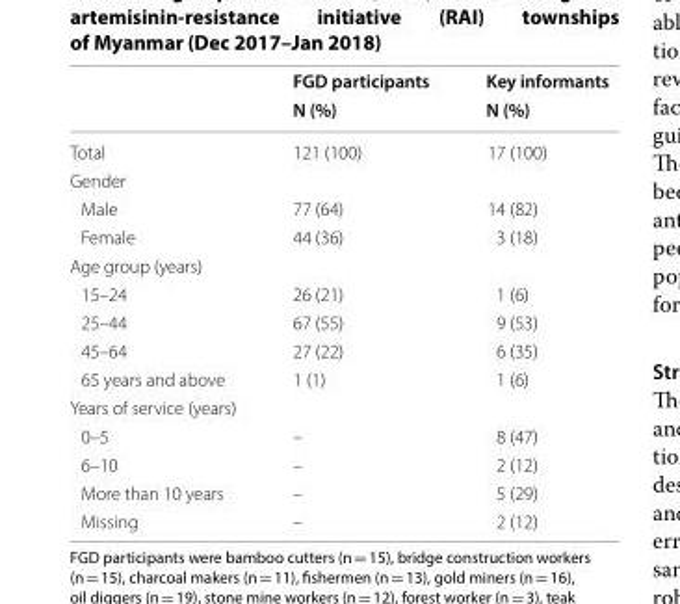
<table><thead><tr><td rowspan="2"></td><td rowspan="2">FGD participants N (%)</td><td rowspan="2">Key informants N (%)</td></tr><tr></tr></thead><tbody><tr><td>Total</td><td>121 (100)</td><td>17 (100)</td></tr><tr><td colspan="3">Gender</td></tr><tr><td>Male</td><td>77 (64)</td><td>14 (82)</td></tr><tr><td>Female</td><td>44 (36)</td><td>3 (18)</td></tr><tr><td colspan="3">Age group (years)</td></tr><tr><td>15–24</td><td>26 (21)</td><td>1 (6)</td></tr><tr><td>25–44</td><td>67 (55)</td><td>9 (53)</td></tr><tr><td>45–64</td><td>27 (22)</td><td>6 (35)</td></tr><tr><td>65 years and above</td><td>1 (1)</td><td>1 (6)</td></tr><tr><td colspan="3">Years of service (years)</td></tr><tr><td>0–5</td><td>–</td><td>8 (47)</td></tr><tr><td>6–10</td><td>–</td><td>2 (12)</td></tr><tr><td>More than 10 years</td><td>–</td><td>5 (29)</td></tr><tr><td>Missing</td><td>–</td><td>2 (12)</td></tr></tbody></table>